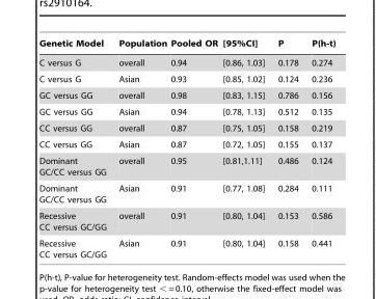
<table><thead><tr><td>Genetic Model</td><td>Population</td><td>Pooled OR</td><td>[95%CI]</td><td>P</td><td>P(h-t)</td></tr></thead><tbody><tr><td>C versus G</td><td>overall</td><td>0.94</td><td>[0.86, 1.03]</td><td>0.178</td><td>0.274</td></tr><tr><td>C versus G</td><td>Asian</td><td>0.93</td><td>[0.85, 1.02]</td><td>0.124</td><td>0.236</td></tr><tr><td>GC versus GG</td><td>overall</td><td>0.98</td><td>[0.83, 1.15]</td><td>0.786</td><td>0.156</td></tr><tr><td>GC versus GG</td><td>Asian</td><td>0.94</td><td>[0.78, 1.13]</td><td>0.512</td><td>0.135</td></tr><tr><td>CC versus GG</td><td>overall</td><td>0.87</td><td>[0.75, 1.05]</td><td>0.158</td><td>0.219</td></tr><tr><td>CC versus GG</td><td>Asian</td><td>0.87</td><td>[0.72, 1.05]</td><td>0.155</td><td>0.137</td></tr><tr><td>Dominant GC/CC versus GG</td><td>overall</td><td>0.95</td><td>[0.81,1.11]</td><td>0.486</td><td>0.124</td></tr><tr><td>Dominant GC/CC versus GG</td><td>Asian</td><td>0.91</td><td>[0.77, 1.08]</td><td>0.284</td><td>0.111</td></tr><tr><td>Recessive CC versus GC/GG</td><td>overall</td><td>0.91</td><td>[0.80, 1.04]</td><td>0.153</td><td>0.586</td></tr><tr><td>Recessive CC versus GC/GG</td><td>Asian</td><td>0.91</td><td>[0.80, 1.04]</td><td>0.158</td><td>0.441</td></tr></tbody></table>